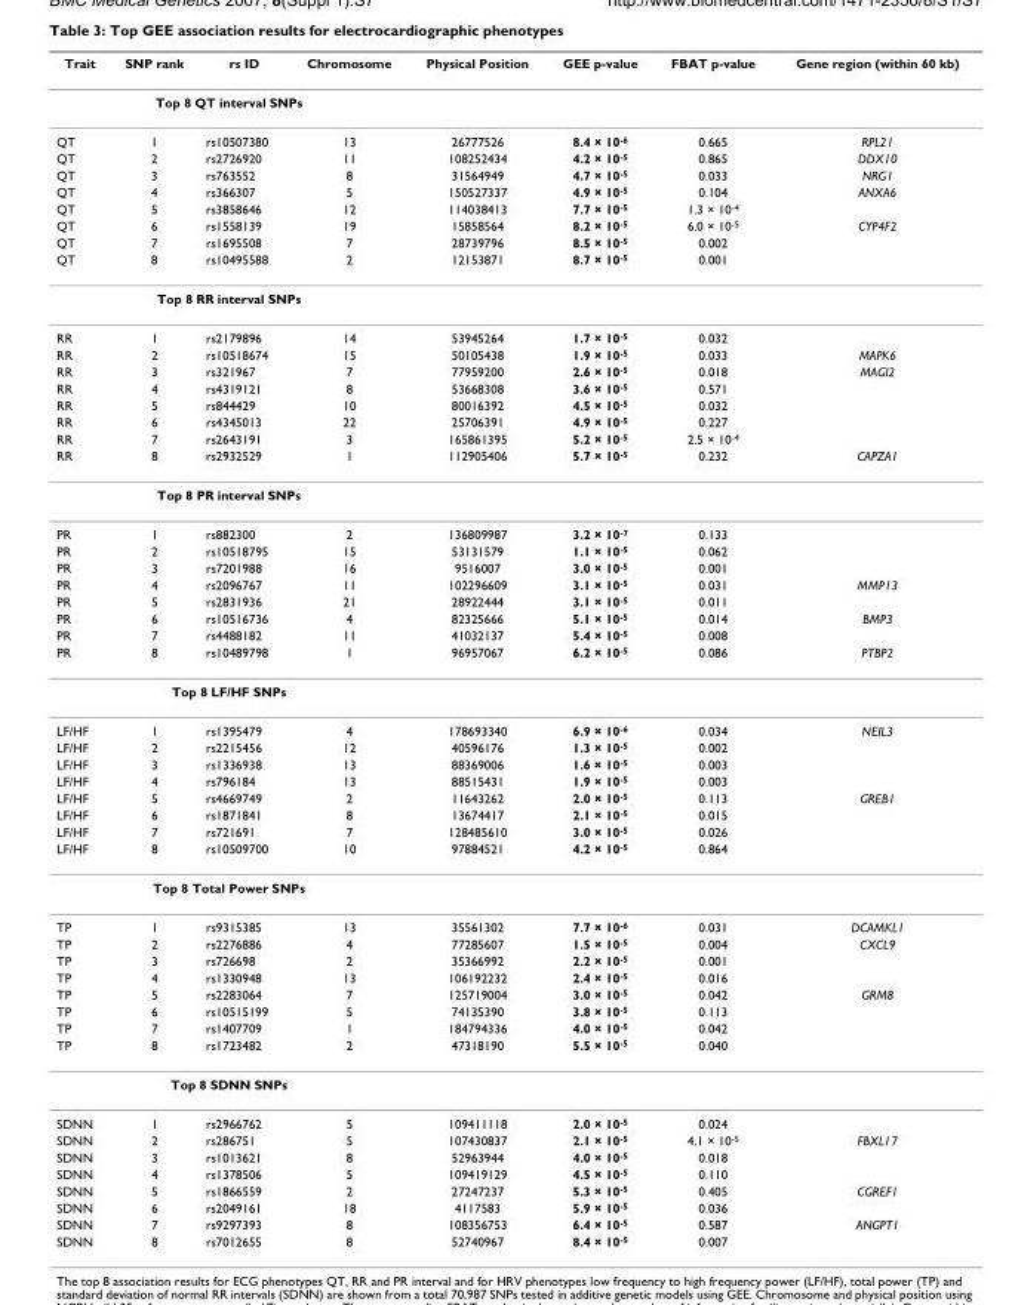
<table><thead><tr><td>Trait</td><td>SNP rank</td><td>rs ID</td><td>Chromosome</td><td>Physical Position</td><td>GEE p-value</td><td>FBAT p-value</td><td>Gene region (within 60 kb)</td></tr></thead><tbody><tr><td colspan="8">Top 8 QT interval SNPs</td></tr><tr><td>QT</td><td>1</td><td>rs10507380</td><td>13</td><td>26777526</td><td>8.4 × 10<sup>-6</sup></td><td>0.665</td><td>RPL21</td></tr><tr><td>QT</td><td>2</td><td>rs2726920</td><td>11</td><td>108252434</td><td>4.2 × 10<sup>-5</sup></td><td>0.865</td><td>DDX10</td></tr><tr><td>QT</td><td>3</td><td>rs763552</td><td>8</td><td>31564949</td><td>4.7 × 10<sup>-5</sup></td><td>0.033</td><td>NRG1</td></tr><tr><td>QT</td><td>4</td><td>rs366307</td><td>5</td><td>150527337</td><td>4.9 × 10<sup>-5</sup></td><td>0.104</td><td>ANXA6</td></tr><tr><td>QT</td><td>5</td><td>rs3858646</td><td>12</td><td>114038413</td><td>7.7 × 10<sup>-5</sup></td><td>1.3 × 10<sup>-4</sup></td><td></td></tr><tr><td>QT</td><td>6</td><td>rs1558139</td><td>19</td><td>15858564</td><td>8.2 × 10<sup>-5</sup></td><td>6.0 × 10<sup>-5</sup></td><td>CYP4F2</td></tr><tr><td>QT</td><td>7</td><td>rs1695508</td><td>7</td><td>28739796</td><td>8.5 × 10<sup>-5</sup></td><td>0.002</td><td></td></tr><tr><td>QT</td><td>8</td><td>rs10495588</td><td>2</td><td>12153871</td><td>8.7 × 10<sup>-5</sup></td><td>0.001</td><td></td></tr><tr><td colspan="8">Top 8 RR interval SNPs</td></tr><tr><td>RR</td><td>1</td><td>rs2179896</td><td>14</td><td>53945264</td><td>1.7 × 10<sup>-5</sup></td><td>0.032</td><td></td></tr><tr><td>RR</td><td>2</td><td>rs10518674</td><td>15</td><td>50105438</td><td>1.9 × 10<sup>-5</sup></td><td>0.033</td><td>MAPK6</td></tr><tr><td>RR</td><td>3</td><td>rs321967</td><td>7</td><td>77959200</td><td>2.6 × 10<sup>-5</sup></td><td>0.018</td><td>MAGI2</td></tr><tr><td>RR</td><td>4</td><td>rs4319121</td><td>8</td><td>53668308</td><td>3.6 × 10<sup>-5</sup></td><td>0.571</td><td></td></tr><tr><td>RR</td><td>5</td><td>rs844429</td><td>10</td><td>80016392</td><td>4.5 × 10<sup>-5</sup></td><td>0.032</td><td></td></tr><tr><td>RR</td><td>6</td><td>rs4345013</td><td>22</td><td>25706391</td><td>4.9 × 10<sup>-5</sup></td><td>0.227</td><td></td></tr><tr><td>RR</td><td>7</td><td>rs2643191</td><td>3</td><td>165861395</td><td>5.2 × 10<sup>-5</sup></td><td>2.5 × 10<sup>-4</sup></td><td></td></tr><tr><td>RR</td><td>8</td><td>rs2932529</td><td>1</td><td>112905406</td><td>5.7 × 10<sup>-5</sup></td><td>0.232</td><td>CAPZA1</td></tr><tr><td colspan="8">Top 8 PR interval SNPs</td></tr><tr><td>PR</td><td>1</td><td>rs882300</td><td>2</td><td>136809987</td><td>3.2 × 10<sup>-7</sup></td><td>0.133</td><td></td></tr><tr><td>PR</td><td>2</td><td>rs10518795</td><td>15</td><td>53131579</td><td>1.1 × 10<sup>-5</sup></td><td>0.062</td><td></td></tr><tr><td>PR</td><td>3</td><td>rs7201988</td><td>16</td><td>9516007</td><td>3.0 × 10<sup>-5</sup></td><td>0.001</td><td></td></tr><tr><td>PR</td><td>4</td><td>rs2096767</td><td>11</td><td>102296609</td><td>3.1 × 10<sup>-5</sup></td><td>0.031</td><td>MMP13</td></tr><tr><td>PR</td><td>5</td><td>rs2831936</td><td>21</td><td>28922444</td><td>3.1 × 10<sup>-5</sup></td><td>0.011</td><td></td></tr><tr><td>PR</td><td>6</td><td>rs10516736</td><td>4</td><td>82325666</td><td>5.1 × 10<sup>-5</sup></td><td>0.014</td><td>BMP3</td></tr><tr><td>PR</td><td>7</td><td>rs4488182</td><td>11</td><td>41032137</td><td>5.4 × 10<sup>-5</sup></td><td>0.008</td><td></td></tr><tr><td>PR</td><td>8</td><td>rs10489798</td><td>1</td><td>96957067</td><td>6.2 × 10<sup>-5</sup></td><td>0.086</td><td>PTBP2</td></tr><tr><td colspan="8">Top 8 LF/HF SNPs</td></tr><tr><td>LF/HF</td><td>1</td><td>rs1395479</td><td>4</td><td>178693340</td><td>6.9 × 10<sup>-6</sup></td><td>0.034</td><td>NEIL3</td></tr><tr><td>LF/HF</td><td>2</td><td>rs2215456</td><td>12</td><td>40596176</td><td>1.3 × 10<sup>-5</sup></td><td>0.002</td><td></td></tr><tr><td>LF/HF</td><td>3</td><td>rs1336938</td><td>13</td><td>88369006</td><td>1.6 × 10<sup>-5</sup></td><td>0.003</td><td></td></tr><tr><td>LF/HF</td><td>4</td><td>rs796184</td><td>13</td><td>88515431</td><td>1.9 × 10<sup>-5</sup></td><td>0.003</td><td></td></tr><tr><td>LF/HF</td><td>5</td><td>rs4669749</td><td>2</td><td>11643262</td><td>2.0 × 10<sup>-5</sup></td><td>0.113</td><td>GREB1</td></tr><tr><td>LF/HF</td><td>6</td><td>rs1871841</td><td>8</td><td>13674417</td><td>2.1 × 10<sup>-5</sup></td><td>0.015</td><td></td></tr><tr><td>LF/HF</td><td>7</td><td>rs721691</td><td>7</td><td>128485610</td><td>3.0 × 10<sup>-5</sup></td><td>0.026</td><td></td></tr><tr><td>LF/HF</td><td>8</td><td>rs10509700</td><td>10</td><td>97884521</td><td>4.2 × 10<sup>-5</sup></td><td>0.864</td><td></td></tr><tr><td colspan="8">Top 8 Total Power SNPs</td></tr><tr><td>TP</td><td>1</td><td>rs9315385</td><td>13</td><td>35561302</td><td>7.7 × 10<sup>-6</sup></td><td>0.031</td><td>DCAMKL1</td></tr><tr><td>TP</td><td>2</td><td>rs2276886</td><td>4</td><td>77285607</td><td>1.5 × 10<sup>-5</sup></td><td>0.004</td><td>CXCL9</td></tr><tr><td>TP</td><td>3</td><td>rs726698</td><td>2</td><td>35366992</td><td>2.2 × 10<sup>-5</sup></td><td>0.001</td><td></td></tr><tr><td>TP</td><td>4</td><td>rs1330948</td><td>13</td><td>106192232</td><td>2.4 × 10<sup>-5</sup></td><td>0.016</td><td></td></tr><tr><td>TP</td><td>5</td><td>rs2283064</td><td>7</td><td>125719004</td><td>3.0 × 10<sup>-5</sup></td><td>0.042</td><td>GRM8</td></tr><tr><td>TP</td><td>6</td><td>rs10515199</td><td>5</td><td>74135390</td><td>3.8 × 10<sup>-5</sup></td><td>0.113</td><td></td></tr><tr><td>TP</td><td>7</td><td>rs1407709</td><td>1</td><td>184794336</td><td>4.0 × 10<sup>-5</sup></td><td>0.042</td><td></td></tr><tr><td>TP</td><td>8</td><td>rs1723482</td><td>2</td><td>47318190</td><td>5.5 × 10<sup>-5</sup></td><td>0.040</td><td></td></tr><tr><td colspan="8">Top 8 SDNN SNPs</td></tr><tr><td>SDNN</td><td>1</td><td>rs2966762</td><td>5</td><td>109411118</td><td>2.0 × 10<sup>-5</sup></td><td>0.024</td><td></td></tr><tr><td>SDNN</td><td>2</td><td>rs286751</td><td>5</td><td>107430837</td><td>2.1 × 10<sup>-5</sup></td><td>4.1 × 10<sup>-5</sup></td><td>FBXL17</td></tr><tr><td>SDNN</td><td>3</td><td>rs1013621</td><td>8</td><td>52963944</td><td>4.0 × 10<sup>-5</sup></td><td>0.018</td><td></td></tr><tr><td>SDNN</td><td>4</td><td>rs1378506</td><td>5</td><td>109419129</td><td>4.5 × 10<sup>-5</sup></td><td>0.110</td><td></td></tr><tr><td>SDNN</td><td>5</td><td>rs1866559</td><td>2</td><td>27247237</td><td>5.3 × 10<sup>-5</sup></td><td>0.405</td><td>CGREF1</td></tr><tr><td>SDNN</td><td>6</td><td>rs2049161</td><td>18</td><td>4117583</td><td>5.9 × 10<sup>-5</sup></td><td>0.036</td><td></td></tr><tr><td>SDNN</td><td>7</td><td>rs9297393</td><td>8</td><td>108356753</td><td>6.4 × 10<sup>-5</sup></td><td>0.587</td><td>ANGPT1</td></tr><tr><td>SDNN</td><td>8</td><td>rs7012655</td><td>8</td><td>52740967</td><td>8.4 × 10<sup>-5</sup></td><td>0.007</td><td></td></tr></tbody></table>